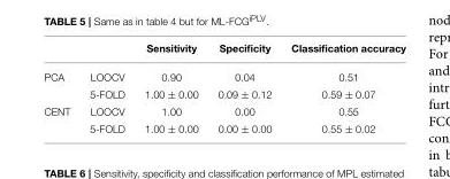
<table><thead><tr><td></td><td></td><td>Sensitivity</td><td>Specificity</td><td>Classification accuracy</td></tr></thead><tbody><tr><td rowspan="2">PCA</td><td>LOOCV</td><td>0.90</td><td>0.04</td><td>0.51</td></tr><tr><td>5-FOLD</td><td>1.00 ± 0.00</td><td>0.09 ± 0.12</td><td>0.59 ± 0.07</td></tr><tr><td rowspan="2">CENT</td><td>LOOCV</td><td>1.00</td><td>0.00</td><td>0.55</td></tr><tr><td>5-FOLD</td><td>1.00 ± 0.00</td><td>0.00 ± 0.00</td><td>0.55 ± 0.02</td></tr></tbody></table>